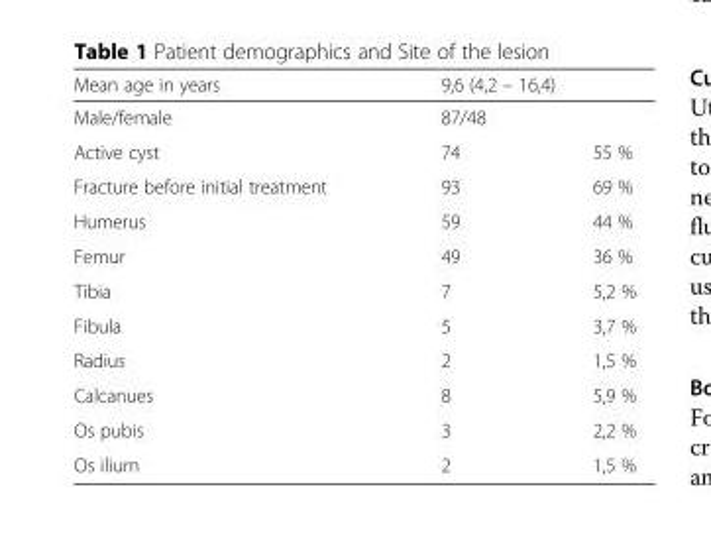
<table><thead><tr><td rowspan="3">Mean age in years Male/female Active cyst</td><td rowspan="2" colspan="2">9,6 (4,2 – 16,4) 87/48</td></tr><tr></tr><tr><td>74</td><td>55 %</td></tr></thead><tbody><tr><td>Fracture before initial treatment</td><td>93</td><td>69 %</td></tr><tr><td>Humerus</td><td>59</td><td>44 %</td></tr><tr><td>Femur</td><td>49</td><td>36 %</td></tr><tr><td>Tibia</td><td>7</td><td>5,2 %</td></tr><tr><td>Fibula</td><td>5</td><td>3,7 %</td></tr><tr><td>Radius</td><td>2</td><td>1,5 %</td></tr><tr><td>Calcanues</td><td>8</td><td>5,9 %</td></tr><tr><td>Os pubis</td><td>3</td><td>2,2 %</td></tr><tr><td>Os ilium</td><td>2</td><td>1,5 %</td></tr></tbody></table>